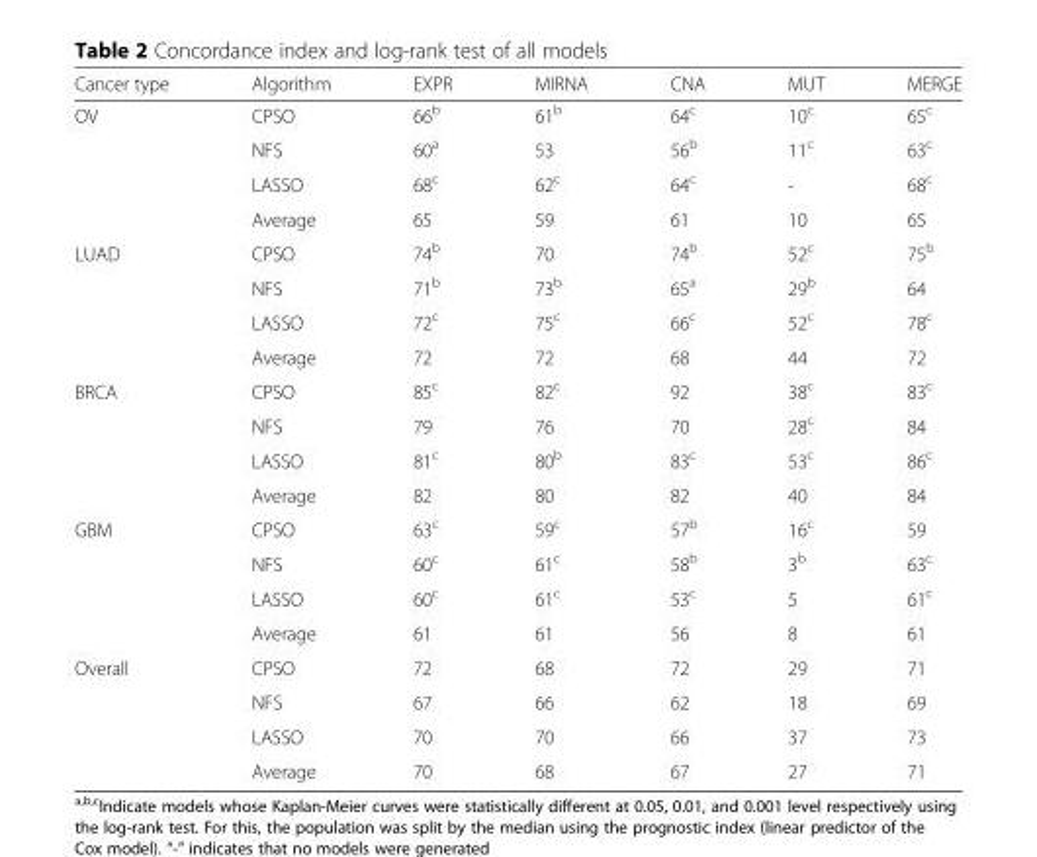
<table><thead><tr><td>Cancer type</td><td>Algorithm</td><td>EXPR</td><td>MIRNA</td><td>CNA</td><td>MUT</td><td>MERGE</td></tr></thead><tbody><tr><td rowspan="4">OV</td><td>CPSO</td><td>66<sup>b</sup></td><td>61<sup>b</sup></td><td>64<sup>c</sup></td><td>10<sup>c</sup></td><td>65<sup>c</sup></td></tr><tr><td>NFS</td><td>60<sup>a</sup></td><td>53</td><td>56<sup>b</sup></td><td>11<sup>c</sup></td><td>63<sup>c</sup></td></tr><tr><td>LASSO</td><td>68<sup>c</sup></td><td>62<sup>c</sup></td><td>64<sup>c</sup></td><td>-</td><td>68<sup>c</sup></td></tr><tr><td>Average</td><td>65</td><td>59</td><td>61</td><td>10</td><td>65</td></tr><tr><td rowspan="4">LUAD</td><td>CPSO</td><td>74<sup>b</sup></td><td>70</td><td>74<sup>b</sup></td><td>52<sup>c</sup></td><td>75<sup>b</sup></td></tr><tr><td>NFS</td><td>71<sup>b</sup></td><td>73<sup>b</sup></td><td>65<sup>a</sup></td><td>29<sup>b</sup></td><td>64</td></tr><tr><td>LASSO</td><td>72<sup>c</sup></td><td>75<sup>c</sup></td><td>66<sup>c</sup></td><td>52<sup>c</sup></td><td>78<sup>c</sup></td></tr><tr><td>Average</td><td>72</td><td>72</td><td>68</td><td>44</td><td>72</td></tr><tr><td rowspan="4">BRCA</td><td>CPSO</td><td>85<sup>c</sup></td><td>82<sup>c</sup></td><td>92</td><td>38<sup>c</sup></td><td>83<sup>c</sup></td></tr><tr><td>NFS</td><td>79</td><td>76</td><td>70</td><td>28<sup>c</sup></td><td>84</td></tr><tr><td>LASSO</td><td>81<sup>c</sup></td><td>80<sup>b</sup></td><td>83<sup>c</sup></td><td>53<sup>c</sup></td><td>86<sup>c</sup></td></tr><tr><td>Average</td><td>82</td><td>80</td><td>82</td><td>40</td><td>84</td></tr><tr><td rowspan="4">GBM</td><td>CPSO</td><td>63<sup>c</sup></td><td>59<sup>c</sup></td><td>57<sup>b</sup></td><td>16<sup>c</sup></td><td>59</td></tr><tr><td>NFS</td><td>60<sup>c</sup></td><td>61<sup>c</sup></td><td>58<sup>b</sup></td><td>3<sup>b</sup></td><td>63<sup>c</sup></td></tr><tr><td>LASSO</td><td>60<sup>c</sup></td><td>61<sup>c</sup></td><td>53<sup>c</sup></td><td>5</td><td>61<sup>c</sup></td></tr><tr><td>Average</td><td>61</td><td>61</td><td>56</td><td>8</td><td>61</td></tr><tr><td rowspan="4">Overall</td><td>CPSO</td><td>72</td><td>68</td><td>72</td><td>29</td><td>71</td></tr><tr><td>NFS</td><td>67</td><td>66</td><td>62</td><td>18</td><td>69</td></tr><tr><td>LASSO</td><td>70</td><td>70</td><td>66</td><td>37</td><td>73</td></tr><tr><td>Average</td><td>70</td><td>68</td><td>67</td><td>27</td><td>71</td></tr></tbody></table>